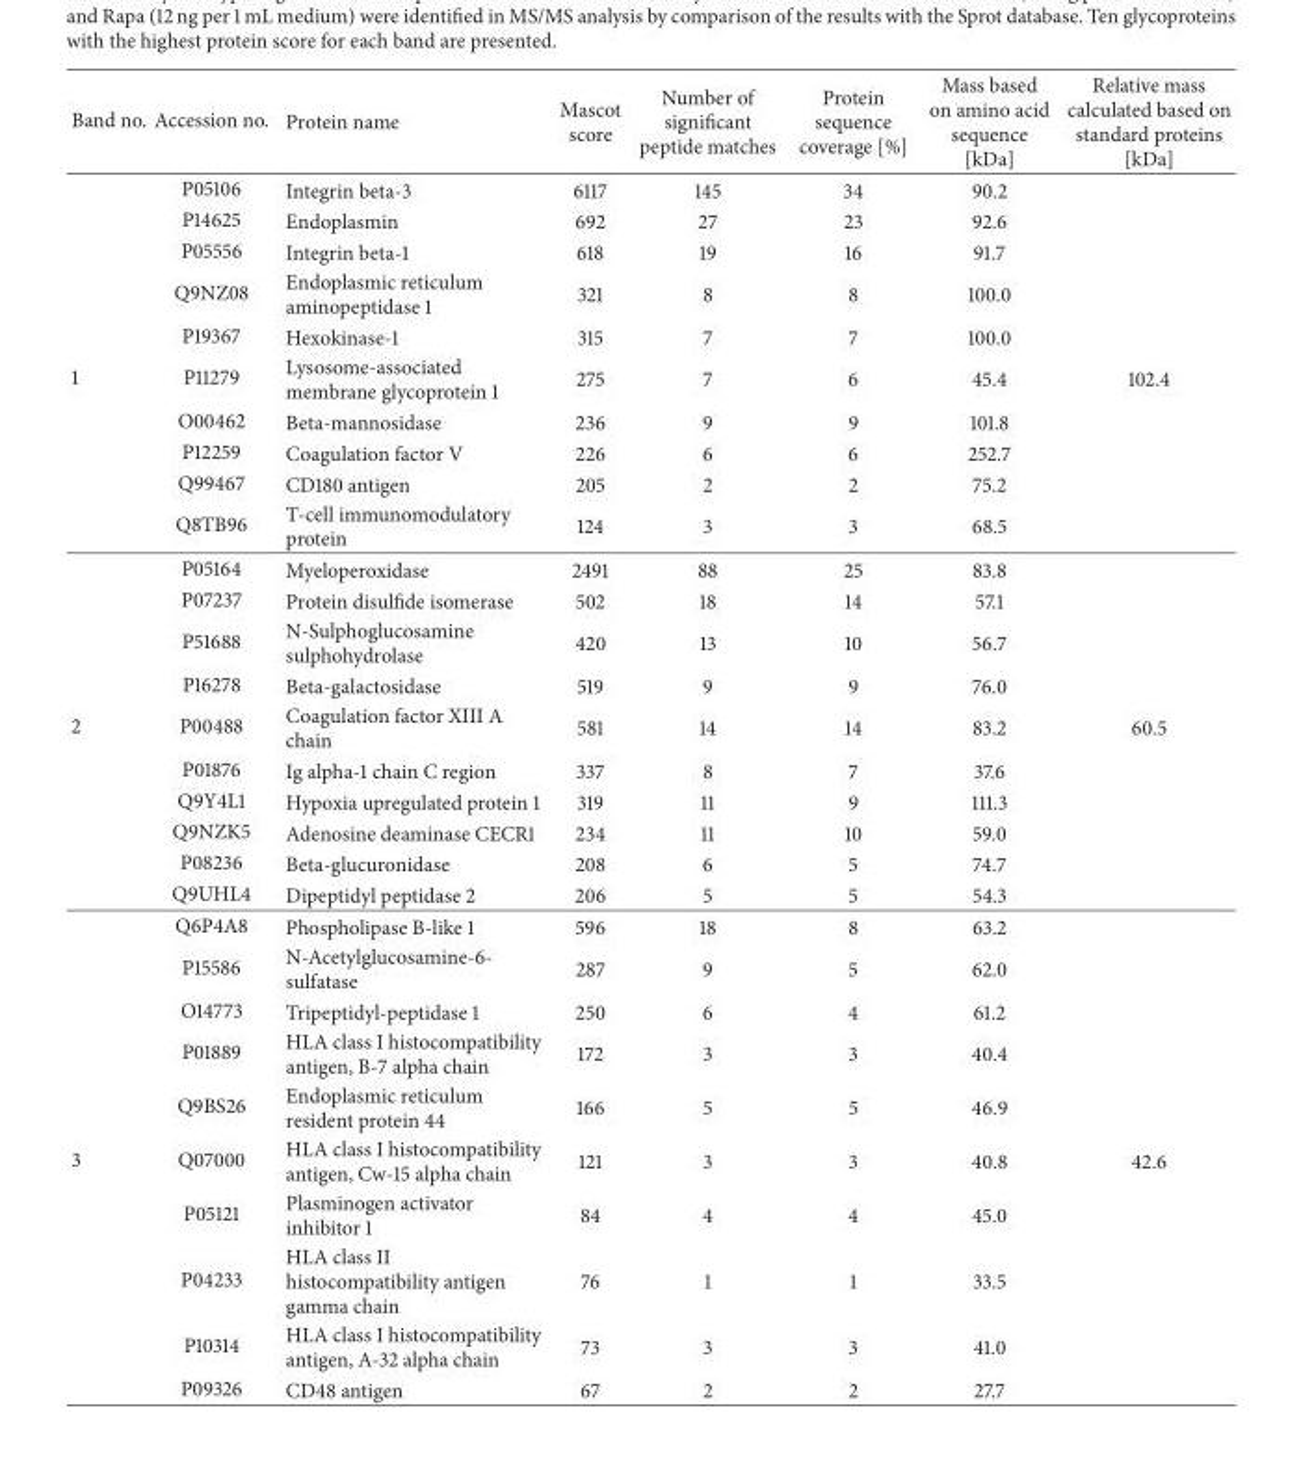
<table><thead><tr><td>Band no.</td><td>Accession no.</td><td>Protein name</td><td>Mascot score</td><td>Number of significant peptide matches</td><td>Protein sequence coverage [%]</td><td>Mass based on amino acid sequence [kDa]</td><td>Relative mass calculated based on standard proteins [kDa]</td></tr></thead><tbody><tr><td></td><td>P05106</td><td>Integrin beta-3</td><td>6117</td><td>145</td><td>34</td><td>90.2</td><td></td></tr><tr><td></td><td>P14625</td><td>Endoplasmin</td><td>692</td><td>27</td><td>23</td><td>92.6</td><td></td></tr><tr><td></td><td>P05556</td><td>Integrin beta-1</td><td>618</td><td>19</td><td>16</td><td>91.7</td><td></td></tr><tr><td></td><td>Q9NZ08</td><td>Endoplasmic reticulum aminopeptidase 1</td><td>321</td><td>8</td><td>8</td><td>100.0</td><td></td></tr><tr><td></td><td>P19367</td><td>Hexokinase-1</td><td>315</td><td>7</td><td>7</td><td>100.0</td><td></td></tr><tr><td rowspan="9">1</td><td>P11279</td><td>Lysosome-associated membrane glycoprotein 1</td><td>275</td><td>7</td><td>6</td><td>45.4</td><td>102.4</td></tr><tr><td>O00462</td><td>Beta-mannosidase</td><td>236</td><td>9</td><td>9</td><td>101.8</td><td></td></tr><tr><td>P12259</td><td>Coagulation factor V</td><td>226</td><td>6</td><td>6</td><td>252.7</td><td></td></tr><tr><td>Q99467</td><td>CD180 antigen</td><td>205</td><td>2</td><td>2</td><td>75.2</td><td></td></tr><tr><td>Q8TB96</td><td>T-cell immunomodulatory protein</td><td>124</td><td>3</td><td>3</td><td>68.5</td><td></td></tr><tr><td>P05164</td><td>Myeloperoxidase</td><td>2491</td><td>88</td><td>25</td><td>83.8</td><td></td></tr><tr><td>P07237</td><td>Protein disulfide isomerase</td><td>502</td><td>18</td><td>14</td><td>57.1</td><td></td></tr><tr><td>P51688</td><td>N-Sulphoglucosamine sulphohydrolase</td><td>420</td><td>13</td><td>10</td><td>56.7</td><td></td></tr><tr><td>P16278</td><td>Beta-galactosidase</td><td>519</td><td>9</td><td>9</td><td>76.0</td><td></td></tr><tr><td rowspan="11">2</td><td>P00488</td><td>Coagulation factor XIII A chain</td><td>581</td><td>14</td><td>14</td><td>83.2</td><td>60.5</td></tr><tr><td>P01876</td><td>Ig alpha-1 chain C region</td><td>337</td><td>8</td><td>7</td><td>37.6</td><td></td></tr><tr><td>Q9Y4L1</td><td>Hypoxia upregulated protein 1</td><td>319</td><td>11</td><td>9</td><td>111.3</td><td></td></tr><tr><td>Q9NZK5</td><td>Adenosine deaminase CECR1</td><td>234</td><td>11</td><td>10</td><td>59.0</td><td></td></tr><tr><td>P08236</td><td>Beta-glucuronidase</td><td>208</td><td>6</td><td>5</td><td>74.7</td><td></td></tr><tr><td>Q9UHL4</td><td>Dipeptidyl peptidase 2</td><td>206</td><td>5</td><td>5</td><td>54.3</td><td></td></tr><tr><td>Q6P4A8</td><td>Phospholipase B-like 1</td><td>596</td><td>18</td><td>8</td><td>63.2</td><td></td></tr><tr><td>P15586</td><td>N-Acetylglucosamine-6- sulfatase</td><td>287</td><td>9</td><td>5</td><td>62.0</td><td></td></tr><tr><td>O14773</td><td>Tripeptidyl-peptidase 1</td><td>250</td><td>6</td><td>4</td><td>61.2</td><td></td></tr><tr><td>P01889</td><td>HLA class I histocompatibility antigen, B-7 alpha chain</td><td>172</td><td>3</td><td>3</td><td>40.4</td><td></td></tr><tr><td>Q9BS26</td><td>Endoplasmic reticulum resident protein 44</td><td>166</td><td>5</td><td>5</td><td>46.9</td><td></td></tr><tr><td rowspan="5">3</td><td>Q07000</td><td>HLA class I histocompatibility antigen, Cw-15 alpha chain</td><td>121</td><td>3</td><td>3</td><td>40.8</td><td>42.6</td></tr><tr><td>P05121</td><td>Plasminogen activator inhibitor 1</td><td>84</td><td>4</td><td>4</td><td>45.0</td><td></td></tr><tr><td>P04233</td><td>HLA class II histocompatibility antigen gamma chain</td><td>76</td><td>1</td><td>1</td><td>33.5</td><td></td></tr><tr><td>P10314</td><td>HLA class I histocompatibility antigen, A-32 alpha chain</td><td>73</td><td>3</td><td>3</td><td>41.0</td><td></td></tr><tr><td>P09326</td><td>CD48 antigen</td><td>67</td><td>2</td><td>2</td><td>27.7</td><td></td></tr></tbody></table>